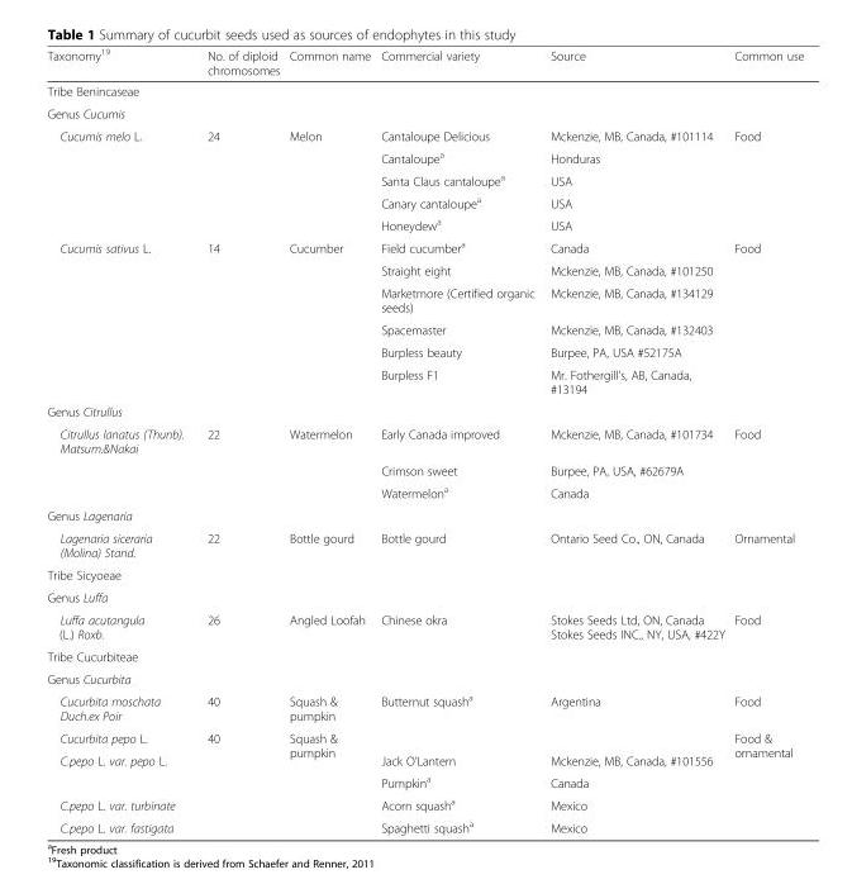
<table><thead><tr><td>Taxonomy<sup>19</sup></td><td>No. of diploid chromosomes</td><td>Common name</td><td>Commercial variety</td><td>Source</td><td>Common use</td></tr></thead><tbody><tr><td colspan="6">Tribe Benincaseae</td></tr><tr><td colspan="6">Genus Cucumis</td></tr><tr><td rowspan="5">Cucumis melo L.</td><td>24</td><td>Melon</td><td>Cantaloupe Delicious</td><td>Mckenzie, MB, Canada, #101114</td><td>Food</td></tr><tr><td></td><td></td><td>Cantaloupe<sup>a</sup></td><td>Honduras</td><td></td></tr><tr><td></td><td></td><td>Santa Claus cantaloupe<sup>a</sup></td><td>USA</td><td></td></tr><tr><td></td><td></td><td>Canary cantaloupe<sup>a</sup></td><td>USA</td><td></td></tr><tr><td></td><td></td><td>Honeydew<sup>a</sup></td><td>USA</td><td></td></tr><tr><td rowspan="6">Cucumis sativus L.</td><td>14</td><td>Cucumber</td><td>Field cucumber<sup>a</sup></td><td>Canada</td><td>Food</td></tr><tr><td></td><td></td><td>Straight eight</td><td>Mckenzie, MB, Canada, #101250</td><td></td></tr><tr><td></td><td></td><td>Marketmore (Certified organic seeds)</td><td>Mckenzie, MB, Canada, #134129</td><td></td></tr><tr><td></td><td></td><td>Spacemaster</td><td>Mckenzie, MB, Canada, #132403</td><td></td></tr><tr><td></td><td></td><td>Burpless beauty</td><td>Burpee, PA, USA #52175A</td><td></td></tr><tr><td></td><td></td><td>Burpless F1</td><td>Mr. Fothergill’s, AB, Canada, #13194</td><td></td></tr><tr><td colspan="6">Genus Citrullus</td></tr><tr><td rowspan="3">Citrullus lanatus (Thunb). Matsum.&amp;Nakai</td><td>22</td><td>Watermelon</td><td>Early Canada improved</td><td>Mckenzie, MB, Canada, #101734</td><td>Food</td></tr><tr><td></td><td></td><td>Crimson sweet</td><td>Burpee, PA, USA, #62679A</td><td></td></tr><tr><td></td><td></td><td>Watermelon<sup>a</sup></td><td>Canada</td><td></td></tr><tr><td colspan="6">Genus Lagenaria</td></tr><tr><td>Lagenaria siceraria (Molina) Stand.</td><td>22</td><td>Bottle gourd</td><td>Bottle gourd</td><td>Ontario Seed Co., ON, Canada</td><td>Ornamental</td></tr><tr><td colspan="6">Tribe Sicyoeae</td></tr><tr><td colspan="6">Genus Luffa</td></tr><tr><td>Luffa acutangula (L.) Roxb.</td><td>26</td><td>Angled Loofah</td><td>Chinese okra</td><td>Stokes Seeds Ltd, ON, Canada Stokes Seeds INC., NY, USA, #422Y</td><td>Food</td></tr><tr><td colspan="6">Tribe Cucurbiteae</td></tr><tr><td colspan="6">Genus Cucurbita</td></tr><tr><td>Cucurbita moschata Duch.ex Poir</td><td>40</td><td>Squash &amp; pumpkin</td><td>Butternut squash<sup>a</sup></td><td>Argentina</td><td>Food</td></tr><tr><td>Cucurbita pepo L.</td><td>40</td><td rowspan="5">Squash &amp; pumpkin</td><td></td><td></td><td rowspan="5">Food &amp; ornamental</td></tr><tr><td rowspan="2">C.pepo L. var. pepo L.</td><td></td><td>Jack O’Lantern</td><td>Mckenzie, MB, Canada, #101556</td></tr><tr><td></td><td>Pumpkin<sup>a</sup></td><td>Canada</td></tr><tr><td>C.pepo L. var. turbinate</td><td></td><td>Acorn squash<sup>a</sup></td><td>Mexico</td></tr><tr><td>C.pepo L. var. fastigata</td><td></td><td>Spaghetti squash<sup>a</sup></td><td>Mexico</td></tr></tbody></table>